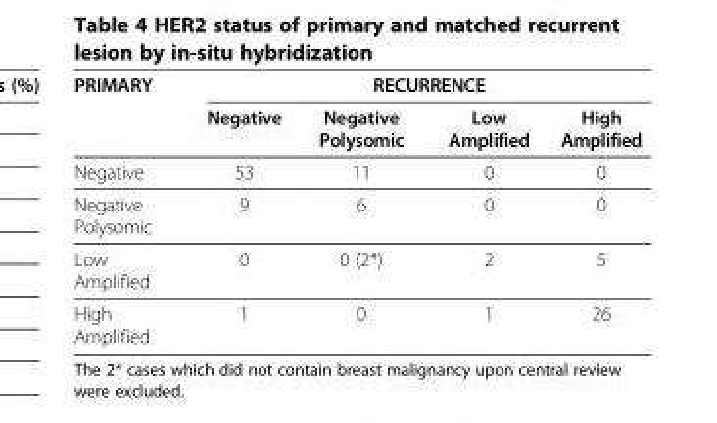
<table><thead><tr><td rowspan="2">PRIMARY</td><td colspan="4">RECURRENCE</td></tr><tr><td>Negative</td><td>Negative Polysomic</td><td>Low Amplified</td><td>High Amplified</td></tr></thead><tbody><tr><td>Negative</td><td>53</td><td>11</td><td>0</td><td>0</td></tr><tr><td>Negative Polysomic</td><td>9</td><td>6</td><td>0</td><td>0</td></tr><tr><td>Low Amplified</td><td>0</td><td>0 (2*)</td><td>2</td><td>5</td></tr><tr><td>High Amplified</td><td>1</td><td>0</td><td>1</td><td>26</td></tr></tbody></table>